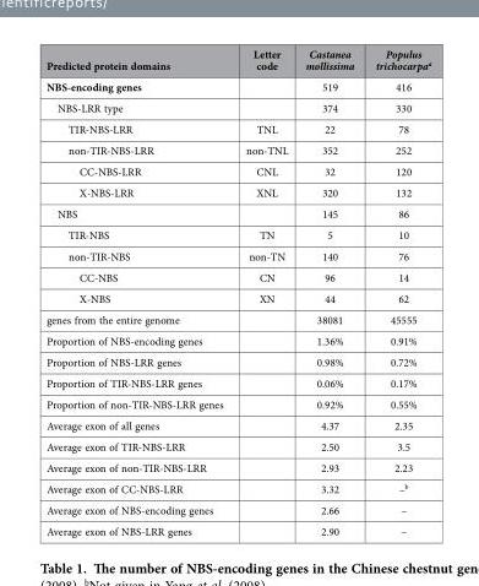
<table><thead><tr><td>Predicted protein domains</td><td>Letter code</td><td>Castanea mollissima</td><td>Populus trichocarpa<sup>a</sup></td></tr></thead><tbody><tr><td>NBS-encoding genes</td><td></td><td>519</td><td>416</td></tr><tr><td>NBS-LRR type</td><td></td><td>374</td><td>330</td></tr><tr><td>TIR-NBS-LRR</td><td>TNL</td><td>22</td><td>78</td></tr><tr><td>non-TIR-NBS-LRR</td><td>non-TNL</td><td>352</td><td>252</td></tr><tr><td>CC-NBS-LRR</td><td>CNL</td><td>32</td><td>120</td></tr><tr><td>X-NBS-LRR</td><td>XNL</td><td>320</td><td>132</td></tr><tr><td>NBS</td><td></td><td>145</td><td>86</td></tr><tr><td>TIR-NBS</td><td>TN</td><td>5</td><td>10</td></tr><tr><td>non-TIR-NBS</td><td>non-TN</td><td>140</td><td>76</td></tr><tr><td>CC-NBS</td><td>CN</td><td>96</td><td>14</td></tr><tr><td>X-NBS</td><td>XN</td><td>44</td><td>62</td></tr><tr><td>genes from the entire genome</td><td></td><td>38081</td><td>45555</td></tr><tr><td>Proportion of NBS-encoding genes</td><td></td><td>1.36%</td><td>0.91%</td></tr><tr><td>Proportion of NBS-LRR genes</td><td></td><td>0.98%</td><td>0.72%</td></tr><tr><td>Proportion of TIR-NBS-LRR genes</td><td></td><td>0.06%</td><td>0.17%</td></tr><tr><td>Proportion of non-TIR-NBS-LRR genes</td><td></td><td>0.92%</td><td>0.55%</td></tr><tr><td>Average exon of all genes</td><td></td><td>4.37</td><td>2.35</td></tr><tr><td>Average exon of TIR-NBS-LRR</td><td></td><td>2.50</td><td>3.5</td></tr><tr><td>Average exon of non-TIR-NBS-LRR</td><td></td><td>2.93</td><td>2.23</td></tr><tr><td>Average exon of CC-NBS-LRR</td><td></td><td>3.32</td><td>–b</td></tr><tr><td>Average exon of NBS-encoding genes</td><td></td><td>2.66</td><td>–</td></tr><tr><td>Average exon of NBS-LRR genes</td><td></td><td>2.90</td><td>–</td></tr></tbody></table>